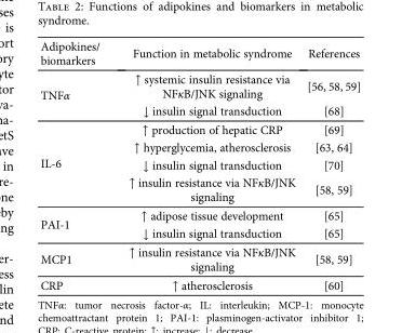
<table><thead><tr><td>Adipokines/ biomarkers</td><td>Function in metabolic syndrome</td><td>References</td></tr></thead><tbody><tr><td rowspan="2">TNFα</td><td>↑ systemic insulin resistance via NFκB/JNK signaling</td><td>[56, 58, 59]</td></tr><tr><td>↓ insulin signal transduction</td><td>[68]</td></tr><tr><td rowspan="4">IL-6</td><td>↑ production of hepatic CRP</td><td>[69]</td></tr><tr><td>↑ hyperglycemia, atherosclerosis</td><td>[63, 64]</td></tr><tr><td>↓ insulin signal transduction</td><td>[70]</td></tr><tr><td>↑ insulin resistance via NFκB/JNK signaling</td><td>[58, 59]</td></tr><tr><td rowspan="2">PAI-1</td><td>↑ adipose tissue development</td><td>[65]</td></tr><tr><td>↓ insulin signal transduction</td><td>[65]</td></tr><tr><td>MCP1</td><td>↑ insulin resistance via NFκB/JNK signaling</td><td>[58, 59]</td></tr><tr><td>CRP</td><td>↑ atherosclerosis</td><td>[60]</td></tr></tbody></table>